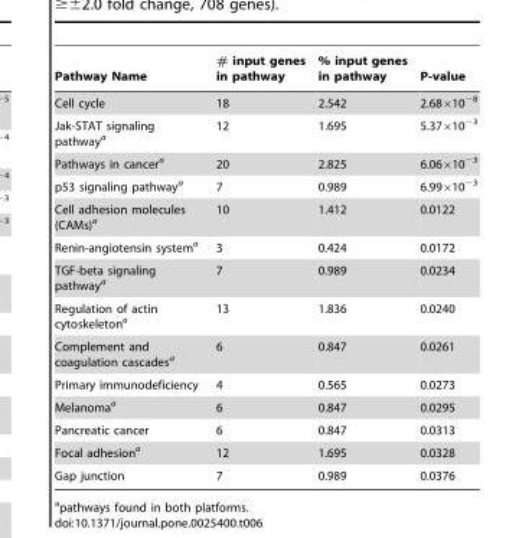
<table><thead><tr><td>Pathway Name</td><td># input genes in pathway</td><td>% input genes in pathway</td><td>P-value</td></tr></thead><tbody><tr><td>Cell cycle</td><td>18</td><td>2.542</td><td>2.68×10<sup>−8</sup></td></tr><tr><td>Jak-STAT signaling pathway<sup>a</sup></td><td>12</td><td>1.695</td><td>5.37×10<sup>−3</sup></td></tr><tr><td>Pathways in cancer<sup>a</sup></td><td>20</td><td>2.825</td><td>6.06×10<sup>−3</sup></td></tr><tr><td>p53 signaling pathway<sup>a</sup></td><td>7</td><td>0.989</td><td>6.99×10<sup>−3</sup></td></tr><tr><td>Cell adhesion molecules (CAMs)<sup>a</sup></td><td>10</td><td>1.412</td><td>0.0122</td></tr><tr><td>Renin-angiotensin system<sup>a</sup></td><td>3</td><td>0.424</td><td>0.0172</td></tr><tr><td>TGF-beta signaling pathway<sup>a</sup></td><td>7</td><td>0.989</td><td>0.0234</td></tr><tr><td>Regulation of actin cytoskeleton<sup>a</sup></td><td>13</td><td>1.836</td><td>0.0240</td></tr><tr><td>Complement and coagulation cascades<sup>a</sup></td><td>6</td><td>0.847</td><td>0.0261</td></tr><tr><td>Primary immunodeficiency</td><td>4</td><td>0.565</td><td>0.0273</td></tr><tr><td>Melanoma<sup>a</sup></td><td>6</td><td>0.847</td><td>0.0295</td></tr><tr><td>Pancreatic cancer</td><td>6</td><td>0.847</td><td>0.0313</td></tr><tr><td>Focal adhesion<sup>a</sup></td><td>12</td><td>1.695</td><td>0.0328</td></tr><tr><td>Gap junction</td><td>7</td><td>0.989</td><td>0.0376</td></tr></tbody></table>